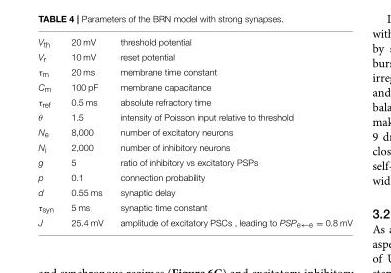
<table><tbody><tr><td>V<sub>th</sub></td><td>20 mV</td><td>threshold potential</td></tr><tr><td>V<sub>r</sub></td><td>10 mV</td><td>reset potential</td></tr><tr><td>τ<sub>m</sub></td><td>20 ms</td><td>membrane time constant</td></tr><tr><td>C<sub>m</sub></td><td>100 pF</td><td>membrane capacitance</td></tr><tr><td>τ<sub>ref</sub></td><td>0.5 ms</td><td>absolute refractory time</td></tr><tr><td>θ</td><td>1.5</td><td>intensity of Poisson input relative to threshold</td></tr><tr><td>N<sub>e</sub></td><td>8,000</td><td>number of excitatory neurons</td></tr><tr><td>N<sub>i</sub></td><td>2,000</td><td>number of inhibitory neurons</td></tr><tr><td>g</td><td>5</td><td>ratio of inhibitory vs excitatory PSPs</td></tr><tr><td>p</td><td>0.1</td><td>connection probability</td></tr><tr><td>d</td><td>0.55 ms</td><td>synaptic delay</td></tr><tr><td>τ<sub>syn</sub></td><td>5 ms</td><td>synaptic time constant</td></tr><tr><td>J</td><td>25.4 mV</td><td>amplitude of excitatory PSCs , leading to PSP<sub>e←e</sub> = 0.8 mV</td></tr></tbody></table>